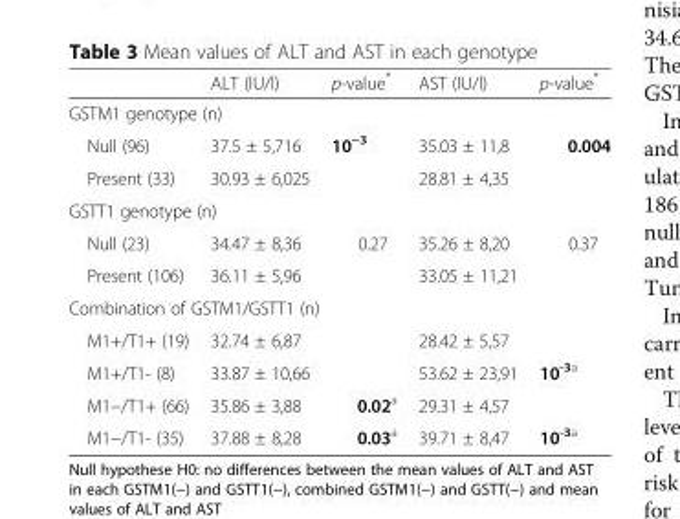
<table><thead><tr><td></td><td>ALT (IU/l)</td><td>p-value*</td><td>AST (IU/l)</td><td>p-value*</td></tr></thead><tbody><tr><td colspan="5">GSTM1 genotype (n)</td></tr><tr><td>Null (96)</td><td>37.5 ± 5,716</td><td rowspan="2">10<sup>−3</sup></td><td>35.03 ± 11,8</td><td rowspan="2">0.004</td></tr><tr><td>Present (33)</td><td>30.93 ± 6,025</td><td>28.81 ± 4,35</td></tr><tr><td colspan="5">GSTT1 genotype (n)</td></tr><tr><td>Null (23)</td><td>34.47 ± 8,36</td><td rowspan="2">0.27</td><td>35.26 ± 8,20</td><td rowspan="2">0.37</td></tr><tr><td>Present (106)</td><td>36.11 ± 5,96</td><td>33.05 ± 11,21</td></tr><tr><td colspan="5">Combination of GSTM1/GSTT1 (n)</td></tr><tr><td>M1+/T1+ (19)</td><td>32.74 ± 6,87</td><td></td><td>28.42 ± 5,57</td><td></td></tr><tr><td>M1+/T1- (8)</td><td>33.87 ± 10,66</td><td></td><td>53.62 ± 23,91</td><td>10<sup>-3a</sup></td></tr><tr><td>M1−/T1+ (66)</td><td>35.86 ± 3,88</td><td>0.02<sup>a</sup></td><td>29.31 ± 4,57</td><td></td></tr><tr><td>M1−/T1- (35)</td><td>37.88 ± 8,28</td><td>0.03<sup>a</sup></td><td>39.71 ± 8,47</td><td>10<sup>-3a</sup></td></tr></tbody></table>